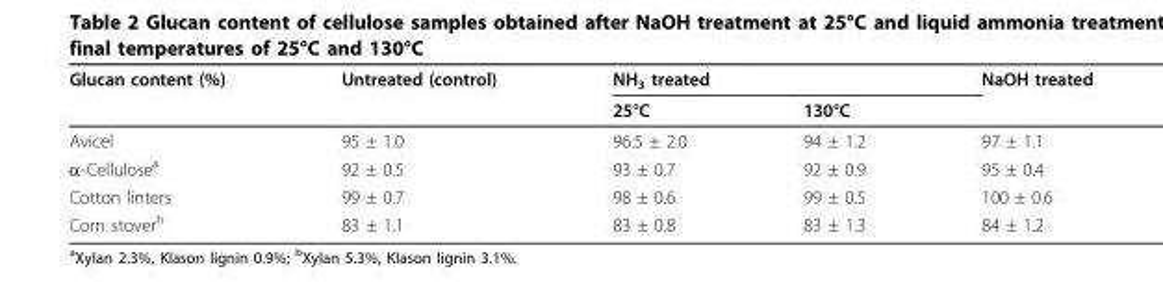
<table><thead><tr><td rowspan="2">Glucan content (%)</td><td rowspan="2">Untreated (control)</td><td colspan="2">NH<sub>3</sub> treated</td><td rowspan="2">NaOH treated</td></tr><tr><td>25°C</td><td>130°C</td></tr></thead><tbody><tr><td>Avicel</td><td>95 ± 1.0</td><td>96.5 ± 2.0</td><td>94 ± 1.2</td><td>97 ± 1.1</td></tr><tr><td>α-Cellulose<sup>a</sup></td><td>92 ± 0.5</td><td>93 ± 0.7</td><td>92 ± 0.9</td><td>95 ± 0.4</td></tr><tr><td>Cotton linters</td><td>99 ± 0.7</td><td>98 ± 0.6</td><td>99 ± 0.5</td><td>100 ± 0.6</td></tr><tr><td>Corn stover<sup>b</sup></td><td>83 ± 1.1</td><td>83 ± 0.8</td><td>83 ± 1.3</td><td>84 ± 1.2</td></tr></tbody></table>